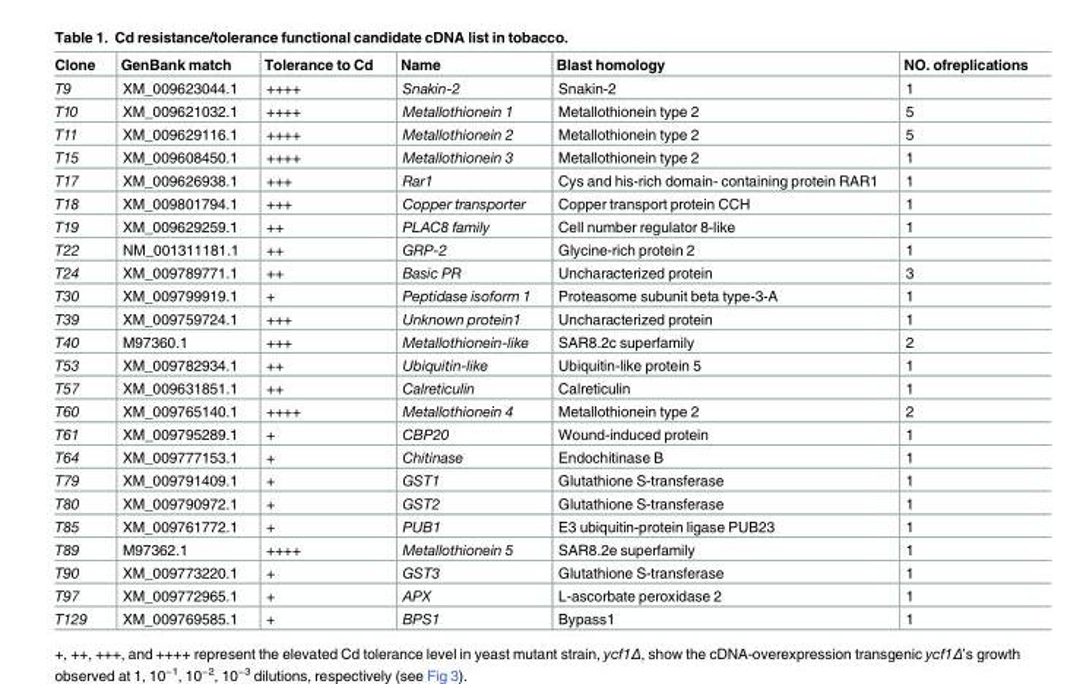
<table><thead><tr><td>Clone</td><td>GenBank match</td><td>Tolerance to Cd</td><td>Name</td><td>Blast homology</td><td>NO. ofreplications</td></tr></thead><tbody><tr><td>T9</td><td>XM_009623044.1</td><td>++++</td><td>Snakin-2</td><td>Snakin-2</td><td>1</td></tr><tr><td>T10</td><td>XM_009621032.1</td><td>++++</td><td>Metallothionein 1</td><td>Metallothionein type 2</td><td>5</td></tr><tr><td>T11</td><td>XM_009629116.1</td><td>++++</td><td>Metallothionein 2</td><td>Metallothionein type 2</td><td>5</td></tr><tr><td>T15</td><td>XM_009608450.1</td><td>++++</td><td>Metallothionein 3</td><td>Metallothionein type 2</td><td>1</td></tr><tr><td>T17</td><td>XM_009626938.1</td><td>+++</td><td>Rar1</td><td>Cys and his-rich domain- containing protein RAR1</td><td>1</td></tr><tr><td>T18</td><td>XM_009801794.1</td><td>+++</td><td>Copper transporter</td><td>Copper transport protein CCH</td><td>1</td></tr><tr><td>T19</td><td>XM_009629259.1</td><td>++</td><td>PLAC8 family</td><td>Cell number regulator 8-like</td><td>1</td></tr><tr><td>T22</td><td>NM_001311181.1</td><td>++</td><td>GRP-2</td><td>Glycine-rich protein 2</td><td>1</td></tr><tr><td>T24</td><td>XM_009789771.1</td><td>++</td><td>Basic PR</td><td>Uncharacterized protein</td><td>3</td></tr><tr><td>T30</td><td>XM_009799919.1</td><td>+</td><td>Peptidase isoform 1</td><td>Proteasome subunit beta type-3-A</td><td>1</td></tr><tr><td>T39</td><td>XM_009759724.1</td><td>+++</td><td>Unknown protein1</td><td>Uncharacterized protein</td><td>1</td></tr><tr><td>T40</td><td>M97360.1</td><td>+++</td><td>Metallothionein-like</td><td>SAR8.2c superfamily</td><td>2</td></tr><tr><td>T53</td><td>XM_009782934.1</td><td>++</td><td>Ubiquitin-like</td><td>Ubiquitin-like protein 5</td><td>1</td></tr><tr><td>T57</td><td>XM_009631851.1</td><td>++</td><td>Calreticulin</td><td>Calreticulin</td><td>1</td></tr><tr><td>T60</td><td>XM_009765140.1</td><td>++++</td><td>Metallothionein 4</td><td>Metallothionein type 2</td><td>2</td></tr><tr><td>T61</td><td>XM_009795289.1</td><td>+</td><td>CBP20</td><td>Wound-induced protein</td><td>1</td></tr><tr><td>T64</td><td>XM_009777153.1</td><td>+</td><td>Chitinase</td><td>Endochitinase B</td><td>1</td></tr><tr><td>T79</td><td>XM_009791409.1</td><td>+</td><td>GST1</td><td>Glutathione S-transferase</td><td>1</td></tr><tr><td>T80</td><td>XM_009790972.1</td><td>+</td><td>GST2</td><td>Glutathione S-transferase</td><td>1</td></tr><tr><td>T85</td><td>XM_009761772.1</td><td>+</td><td>PUB1</td><td>E3 ubiquitin-protein ligase PUB23</td><td>1</td></tr><tr><td>T89</td><td>M97362.1</td><td>++++</td><td>Metallothionein 5</td><td>SAR8.2e superfamily</td><td>1</td></tr><tr><td>T90</td><td>XM_009773220.1</td><td>+</td><td>GST3</td><td>Glutathione S-transferase</td><td>1</td></tr><tr><td>T97</td><td>XM_009772965.1</td><td>+</td><td>APX</td><td>L-ascorbate peroxidase 2</td><td>1</td></tr><tr><td>T129</td><td>XM_009769585.1</td><td>+</td><td>BPS1</td><td>Bypass1</td><td>1</td></tr></tbody></table>